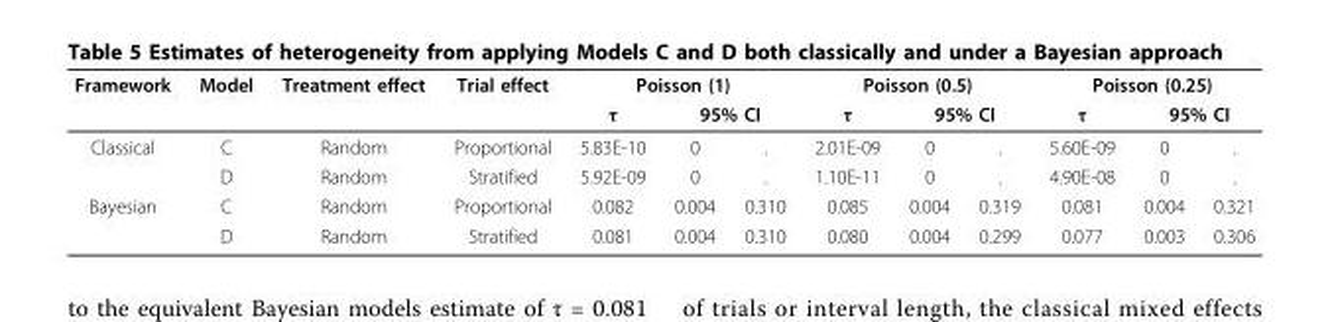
<table><thead><tr><td rowspan="3">Framework Classical</td><td rowspan="3">Model C</td><td rowspan="3">Treatment effect Random</td><td rowspan="3">Trial effect Proportional</td><td colspan="3">Poisson (1)</td><td colspan="3">Poisson (0.5)</td><td colspan="3">Poisson (0.25)</td></tr><tr><td rowspan="2">τ 5.83E-10</td><td colspan="2">95% CI</td><td rowspan="2">τ 2.01E-09</td><td colspan="2">95% CI</td><td rowspan="2">τ 5.60E-09</td><td colspan="2">95% CI</td></tr><tr><td>0</td><td>.</td><td>0</td><td>.</td><td>0</td><td>.</td></tr></thead><tbody><tr><td></td><td>D</td><td>Random</td><td>Stratified</td><td>5.92E-09</td><td>0</td><td>.</td><td>1.10E-11</td><td>0</td><td>.</td><td>4.90E-08</td><td>0</td><td>.</td></tr><tr><td rowspan="2">Bayesian</td><td>C</td><td>Random</td><td>Proportional</td><td>0.082</td><td>0.004</td><td>0.310</td><td>0.085</td><td>0.004</td><td>0.319</td><td>0.081</td><td>0.004</td><td>0.321</td></tr><tr><td>D</td><td>Random</td><td>Stratified</td><td>0.081</td><td>0.004</td><td>0.310</td><td>0.080</td><td>0.004</td><td>0.299</td><td>0.077</td><td>0.003</td><td>0.306</td></tr></tbody></table>